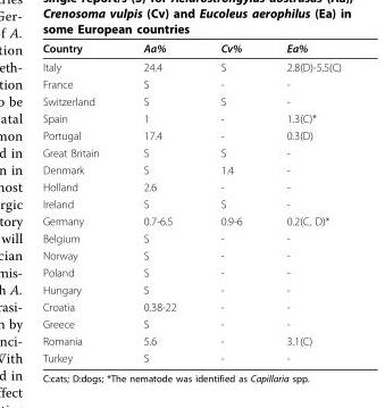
<table><thead><tr><td>Country</td><td>Aa%</td><td>Cv%</td><td>Ea%</td></tr></thead><tbody><tr><td>Italy</td><td>24.4</td><td>S</td><td>2.8(D)-5.5(C)</td></tr><tr><td>France</td><td>S</td><td>-</td><td>-</td></tr><tr><td>Switzerland</td><td>S</td><td>S</td><td>-</td></tr><tr><td>Spain</td><td>1</td><td>-</td><td>1.3(C)*</td></tr><tr><td>Portugal</td><td>17.4</td><td>-</td><td>0.3(D)</td></tr><tr><td>Great Britain</td><td>S</td><td>S</td><td>-</td></tr><tr><td>Denmark</td><td>S</td><td>1.4</td><td>-</td></tr><tr><td>Holland</td><td>2.6</td><td>-</td><td>-</td></tr><tr><td>Ireland</td><td>S</td><td>S</td><td>-</td></tr><tr><td>Germany</td><td>0.7-6.5</td><td>0.9-6</td><td>0.2(C, D)*</td></tr><tr><td>Belgium</td><td>S</td><td>-</td><td>-</td></tr><tr><td>Norway</td><td>S</td><td>-</td><td>-</td></tr><tr><td>Poland</td><td>S</td><td>-</td><td>-</td></tr><tr><td>Hungary</td><td>S</td><td>-</td><td>-</td></tr><tr><td>Croatia</td><td>0.38-22</td><td>-</td><td>-</td></tr><tr><td>Greece</td><td>S</td><td>-</td><td>-</td></tr><tr><td>Romania</td><td>5.6</td><td>-</td><td>3.1(C)</td></tr><tr><td>Turkey</td><td>S</td><td>-</td><td>-</td></tr></tbody></table>